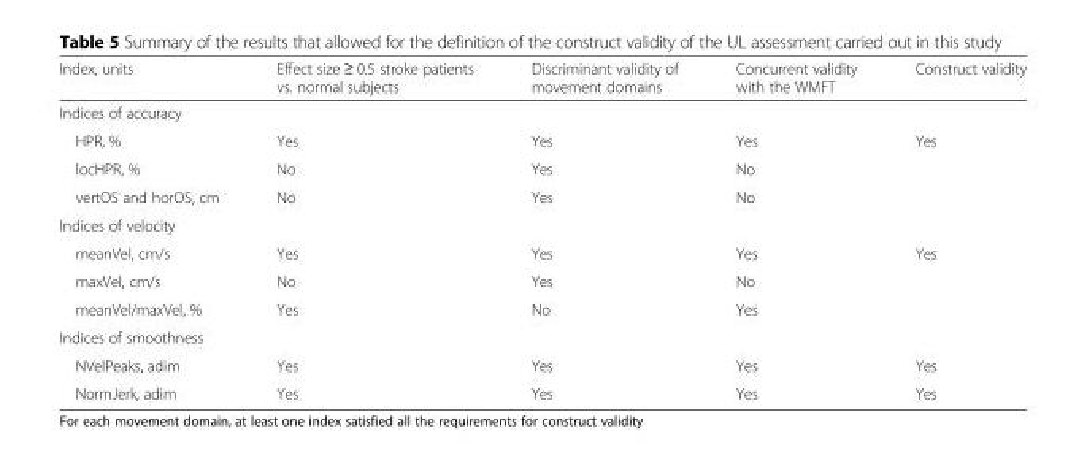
<table><thead><tr><td>Index, units</td><td>Effect size ≥ 0.5 stroke patients vs. normal subjects</td><td>Discriminant validity of movement domains</td><td>Concurrent validity with the WMFT</td><td>Construct validity</td></tr></thead><tbody><tr><td colspan="5">Indices of accuracy</td></tr><tr><td>HPR, %</td><td>Yes</td><td>Yes</td><td>Yes</td><td>Yes</td></tr><tr><td>locHPR, %</td><td>No</td><td>Yes</td><td>No</td><td></td></tr><tr><td>vertOS and horOS, cm</td><td>No</td><td>Yes</td><td>No</td><td></td></tr><tr><td colspan="5">Indices of velocity</td></tr><tr><td>meanVel, cm/s</td><td>Yes</td><td>Yes</td><td>Yes</td><td>Yes</td></tr><tr><td>maxVel, cm/s</td><td>No</td><td>Yes</td><td>No</td><td></td></tr><tr><td>meanVel/maxVel, %</td><td>Yes</td><td>No</td><td>Yes</td><td></td></tr><tr><td colspan="5">Indices of smoothness</td></tr><tr><td>NVelPeaks, adim</td><td>Yes</td><td>Yes</td><td>Yes</td><td>Yes</td></tr><tr><td>NormJerk, adim</td><td>Yes</td><td>Yes</td><td>Yes</td><td>Yes</td></tr></tbody></table>